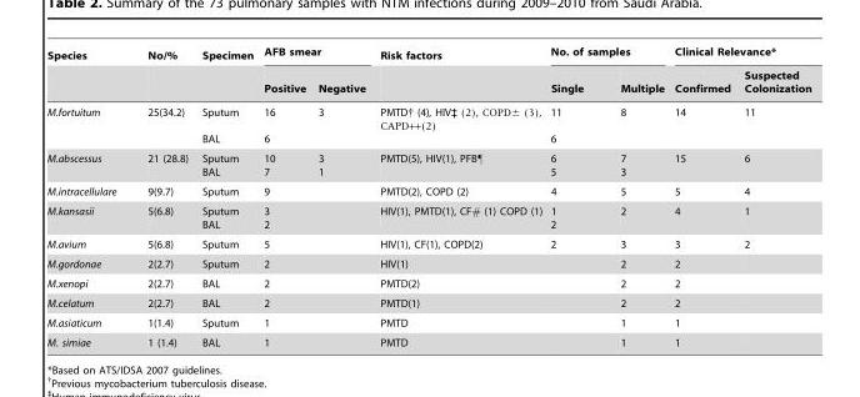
<table><thead><tr><td rowspan="2">Species</td><td rowspan="2">No/%</td><td rowspan="2">Specimen</td><td colspan="2">AFB smear</td><td rowspan="2">Risk factors</td><td colspan="2">No. of samples</td><td colspan="2">Clinical Relevance*</td></tr><tr><td>Positive</td><td>Negative</td><td>Single</td><td>Multiple</td><td>Confirmed</td><td>Suspected Colonization</td></tr></thead><tbody><tr><td>M.fortuitum</td><td>25(34.2)</td><td>Sputum BAL</td><td>16 6</td><td>3</td><td>PMTD† (4), HIV‡ (2), COPD± (3), CAPD++(2)</td><td>11 6</td><td>8</td><td>14</td><td>11</td></tr><tr><td>M.abscessus</td><td>21 (28.8)</td><td>Sputum BAL</td><td>10 7</td><td>3 1</td><td>PMTD(5), HIV(1), PFB¶</td><td>6 5</td><td>7 3</td><td>15</td><td>6</td></tr><tr><td>M.intracellulare</td><td>9(9.7)</td><td>Sputum</td><td>9</td><td></td><td>PMTD(2), COPD (2)</td><td>4</td><td>5</td><td>5</td><td>4</td></tr><tr><td>M.kansasii</td><td>5(6.8)</td><td>Sputum BAL</td><td>3 2</td><td></td><td>HIV(1), PMTD(1), CF# (1) COPD (1)</td><td>1 2</td><td>2</td><td>4</td><td>1</td></tr><tr><td>M.avium</td><td>5(6.8)</td><td>Sputum</td><td>5</td><td></td><td>HIV(1), CF(1), COPD(2)</td><td>2</td><td>3</td><td>3</td><td>2</td></tr><tr><td>M.gordonae</td><td>2(2.7)</td><td>Sputum</td><td>2</td><td></td><td>HIV(1)</td><td></td><td>2</td><td>2</td><td></td></tr><tr><td>M.xenopi</td><td>2(2.7)</td><td>BAL</td><td>2</td><td></td><td>PMTD(2)</td><td></td><td>2</td><td>2</td><td></td></tr><tr><td>M.celatum</td><td>2(2.7)</td><td>BAL</td><td>2</td><td></td><td>PMTD(1)</td><td></td><td>2</td><td>2</td><td></td></tr><tr><td>M.asiaticum</td><td>1(1.4)</td><td>Sputum</td><td>1</td><td></td><td>PMTD</td><td></td><td>1</td><td>1</td><td></td></tr><tr><td>M. simiae</td><td>1 (1.4)</td><td>BAL</td><td>1</td><td></td><td>PMTD</td><td></td><td>1</td><td>1</td><td></td></tr></tbody></table>